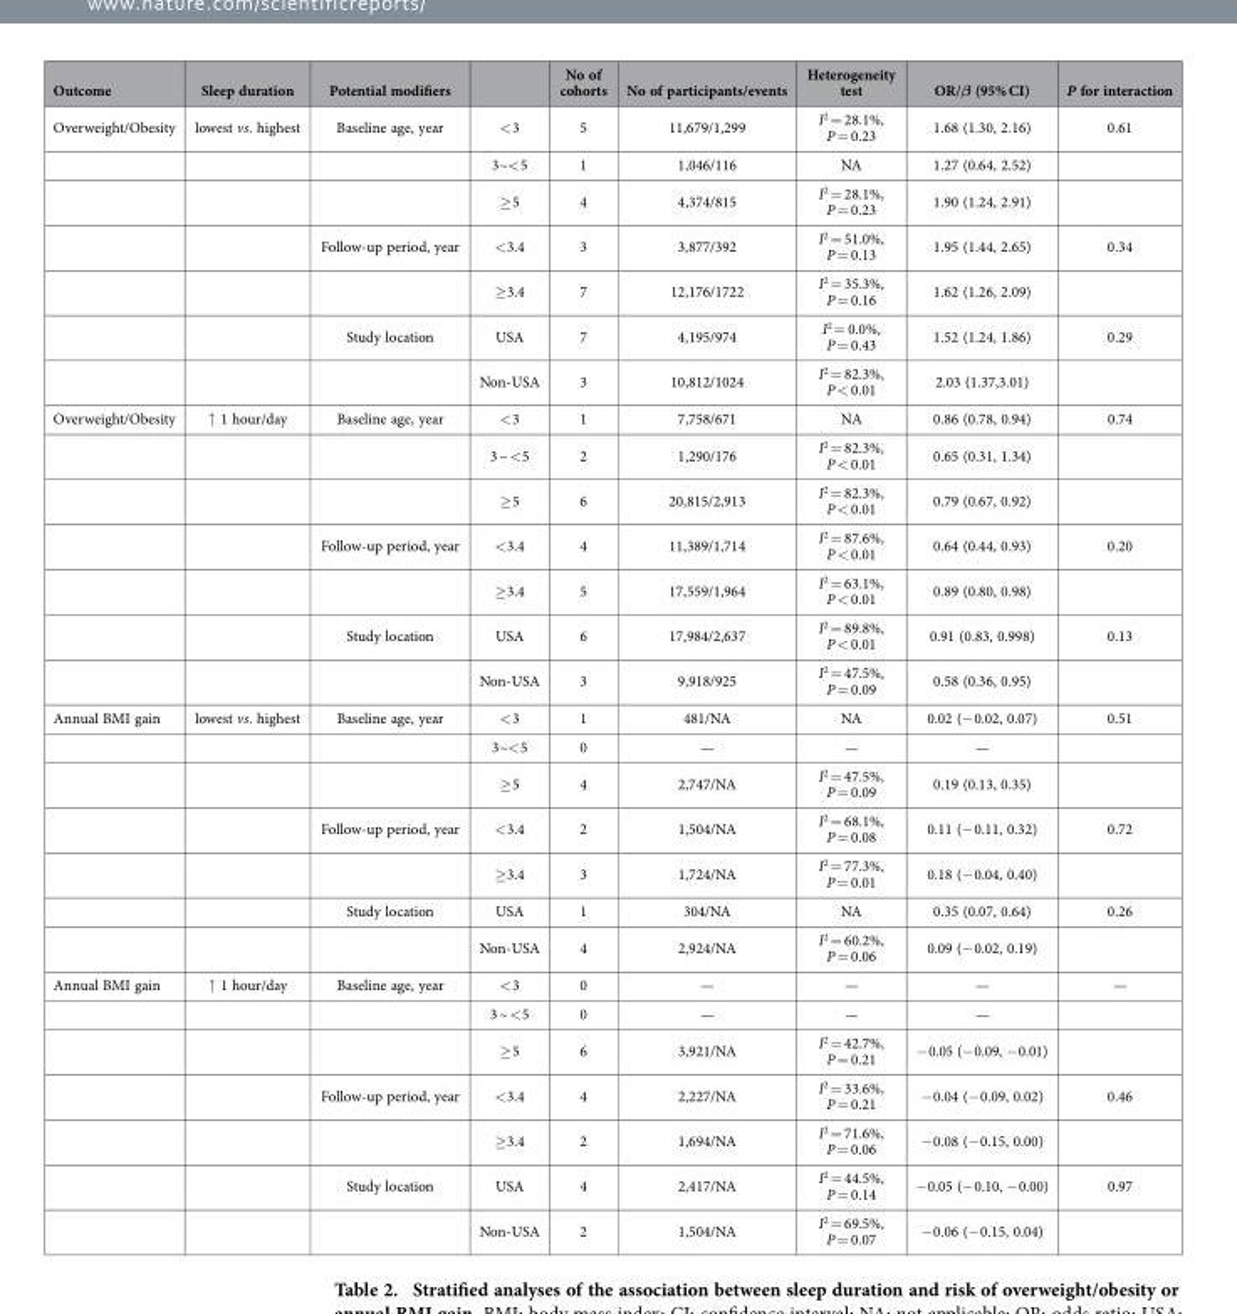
<table><thead><tr><td>Outcome</td><td>Sleep duration</td><td>Potential modifiers</td><td></td><td>No of cohorts</td><td>No of participants/events</td><td>Heterogeneity test</td><td>OR/β (95% CI)</td><td>P for interaction</td></tr></thead><tbody><tr><td rowspan="7">Overweight/Obesity</td><td>lowest vs. highest</td><td>Baseline age, year</td><td>&lt; 3</td><td>5</td><td>11,679/1,299</td><td>I<sup>2</sup> = 28.1%, P = 0.23</td><td>1.68 (1.30, 2.16)</td><td>0.61</td></tr><tr><td></td><td></td><td>3~&lt; 5</td><td>1</td><td>1,046/116</td><td>NA</td><td>1.27 (0.64, 2.52)</td><td></td></tr><tr><td></td><td></td><td>≥ 5</td><td>4</td><td>4,374/815</td><td>I<sup>2</sup> = 28.1%, P = 0.23</td><td>1.90 (1.24, 2.91)</td><td></td></tr><tr><td></td><td>Follow-up period, year</td><td>&lt; 3.4</td><td>3</td><td>3,877/392</td><td>I<sup>2</sup> = 51.0%, P = 0.13</td><td>1.95 (1.44, 2.65)</td><td>0.34</td></tr><tr><td></td><td></td><td>≥ 3.4</td><td>7</td><td>12,176/1722</td><td>I<sup>2</sup> = 35.3%, P = 0.16</td><td>1.62 (1.26, 2.09)</td><td></td></tr><tr><td></td><td>Study location</td><td>USA</td><td>7</td><td>4,195/974</td><td>I<sup>2</sup> = 0.0%, P = 0.43</td><td>1.52 (1.24, 1.86)</td><td>0.29</td></tr><tr><td></td><td></td><td>Non-USA</td><td>3</td><td>10,812/1024</td><td>I<sup>2</sup> = 82.3%, P &lt; 0.01</td><td>2.03 (1.37,3.01)</td><td></td></tr><tr><td rowspan="7">Overweight/Obesity</td><td>↑ 1 hour/day</td><td>Baseline age, year</td><td>&lt; 3</td><td>1</td><td>7,758/671</td><td>NA</td><td>0.86 (0.78, 0.94)</td><td>0.74</td></tr><tr><td></td><td></td><td>3 ~ &lt; 5</td><td>2</td><td>1,290/176</td><td>I<sup>2</sup> = 82.3%, P &lt; 0.01</td><td>0.65 (0.31, 1.34)</td><td></td></tr><tr><td></td><td></td><td>≥ 5</td><td>6</td><td>20,815/2,913</td><td>I<sup>2</sup> = 82.3%, P &lt; 0.01</td><td>0.79 (0.67, 0.92)</td><td></td></tr><tr><td></td><td>Follow-up period, year</td><td>&lt; 3.4</td><td>4</td><td>11,389/1,714</td><td>I<sup>2</sup> = 87.6%, P &lt; 0.01</td><td>0.64 (0.44, 0.93)</td><td>0.20</td></tr><tr><td></td><td></td><td>≥ 3.4</td><td>5</td><td>17,559/1,964</td><td>I<sup>2</sup> = 63.1%, P &lt; 0.01</td><td>0.89 (0.80, 0.98)</td><td></td></tr><tr><td></td><td>Study location</td><td>USA</td><td>6</td><td>17,984/2,637</td><td>I<sup>2</sup> = 89.8%, P &lt; 0.01</td><td>0.91 (0.83, 0.998)</td><td>0.13</td></tr><tr><td></td><td></td><td>Non-USA</td><td>3</td><td>9,918/925</td><td>I<sup>2</sup> = 47.5%, P = 0.09</td><td>0.58 (0.36, 0.95)</td><td></td></tr><tr><td rowspan="7">Annual BMI gain</td><td>lowest vs. highest</td><td>Baseline age, year</td><td>&lt; 3</td><td>1</td><td>481/NA</td><td>NA</td><td>0.02 (− 0.02, 0.07)</td><td>0.51</td></tr><tr><td></td><td></td><td>3~&lt; 5</td><td>0</td><td>—</td><td>—</td><td>—</td><td></td></tr><tr><td></td><td></td><td>≥ 5</td><td>4</td><td>2,747/NA</td><td>I<sup>2</sup> = 47.5%, P = 0.09</td><td>0.19 (0.13, 0.35)</td><td></td></tr><tr><td></td><td>Follow-up period, year</td><td>&lt; 3.4</td><td>2</td><td>1,504/NA</td><td>I<sup>2</sup> = 68.1%, P = 0.08</td><td>0.11 (− 0.11, 0.32)</td><td>0.72</td></tr><tr><td></td><td></td><td>≥ 3.4</td><td>3</td><td>1,724/NA</td><td>I<sup>2</sup> = 77.3%, P = 0.01</td><td>0.18 (− 0.04, 0.40)</td><td></td></tr><tr><td></td><td>Study location</td><td>USA</td><td>1</td><td>304/NA</td><td>NA</td><td>0.35 (0.07, 0.64)</td><td>0.26</td></tr><tr><td></td><td></td><td>Non-USA</td><td>4</td><td>2,924/NA</td><td>I<sup>2</sup> = 60.2%, P = 0.06</td><td>0.09 (− 0.02, 0.19)</td><td></td></tr><tr><td rowspan="7">Annual BMI gain</td><td>↑ 1 hour/day</td><td>Baseline age, year</td><td>&lt; 3</td><td>0</td><td>—</td><td>—</td><td>—</td><td>—</td></tr><tr><td></td><td></td><td>3 ~ &lt; 5</td><td>0</td><td>—</td><td>—</td><td>—</td><td></td></tr><tr><td></td><td></td><td>≥ 5</td><td>6</td><td>3,921/NA</td><td>I<sup>2</sup> = 42.7%, P = 0.21</td><td>− 0.05 (− 0.09, − 0.01)</td><td></td></tr><tr><td></td><td>Follow-up period, year</td><td>&lt; 3.4</td><td>4</td><td>2,227/NA</td><td>I<sup>2</sup> = 33.6%, P = 0.21</td><td>− 0.04 (− 0.09, 0.02)</td><td>0.46</td></tr><tr><td></td><td></td><td>≥ 3.4</td><td>2</td><td>1,694/NA</td><td>I<sup>2</sup> = 71.6%, P = 0.06</td><td>− 0.08 (− 0.15, 0.00)</td><td></td></tr><tr><td></td><td>Study location</td><td>USA</td><td>4</td><td>2,417/NA</td><td>I<sup>2</sup> = 44.5%, P = 0.14</td><td>− 0.05 (− 0.10, − 0.00)</td><td>0.97</td></tr><tr><td></td><td></td><td>Non-USA</td><td>2</td><td>1,504/NA</td><td>I<sup>2</sup> = 69.5%, P = 0.07</td><td>− 0.06 (− 0.15, 0.04)</td><td></td></tr></tbody></table>